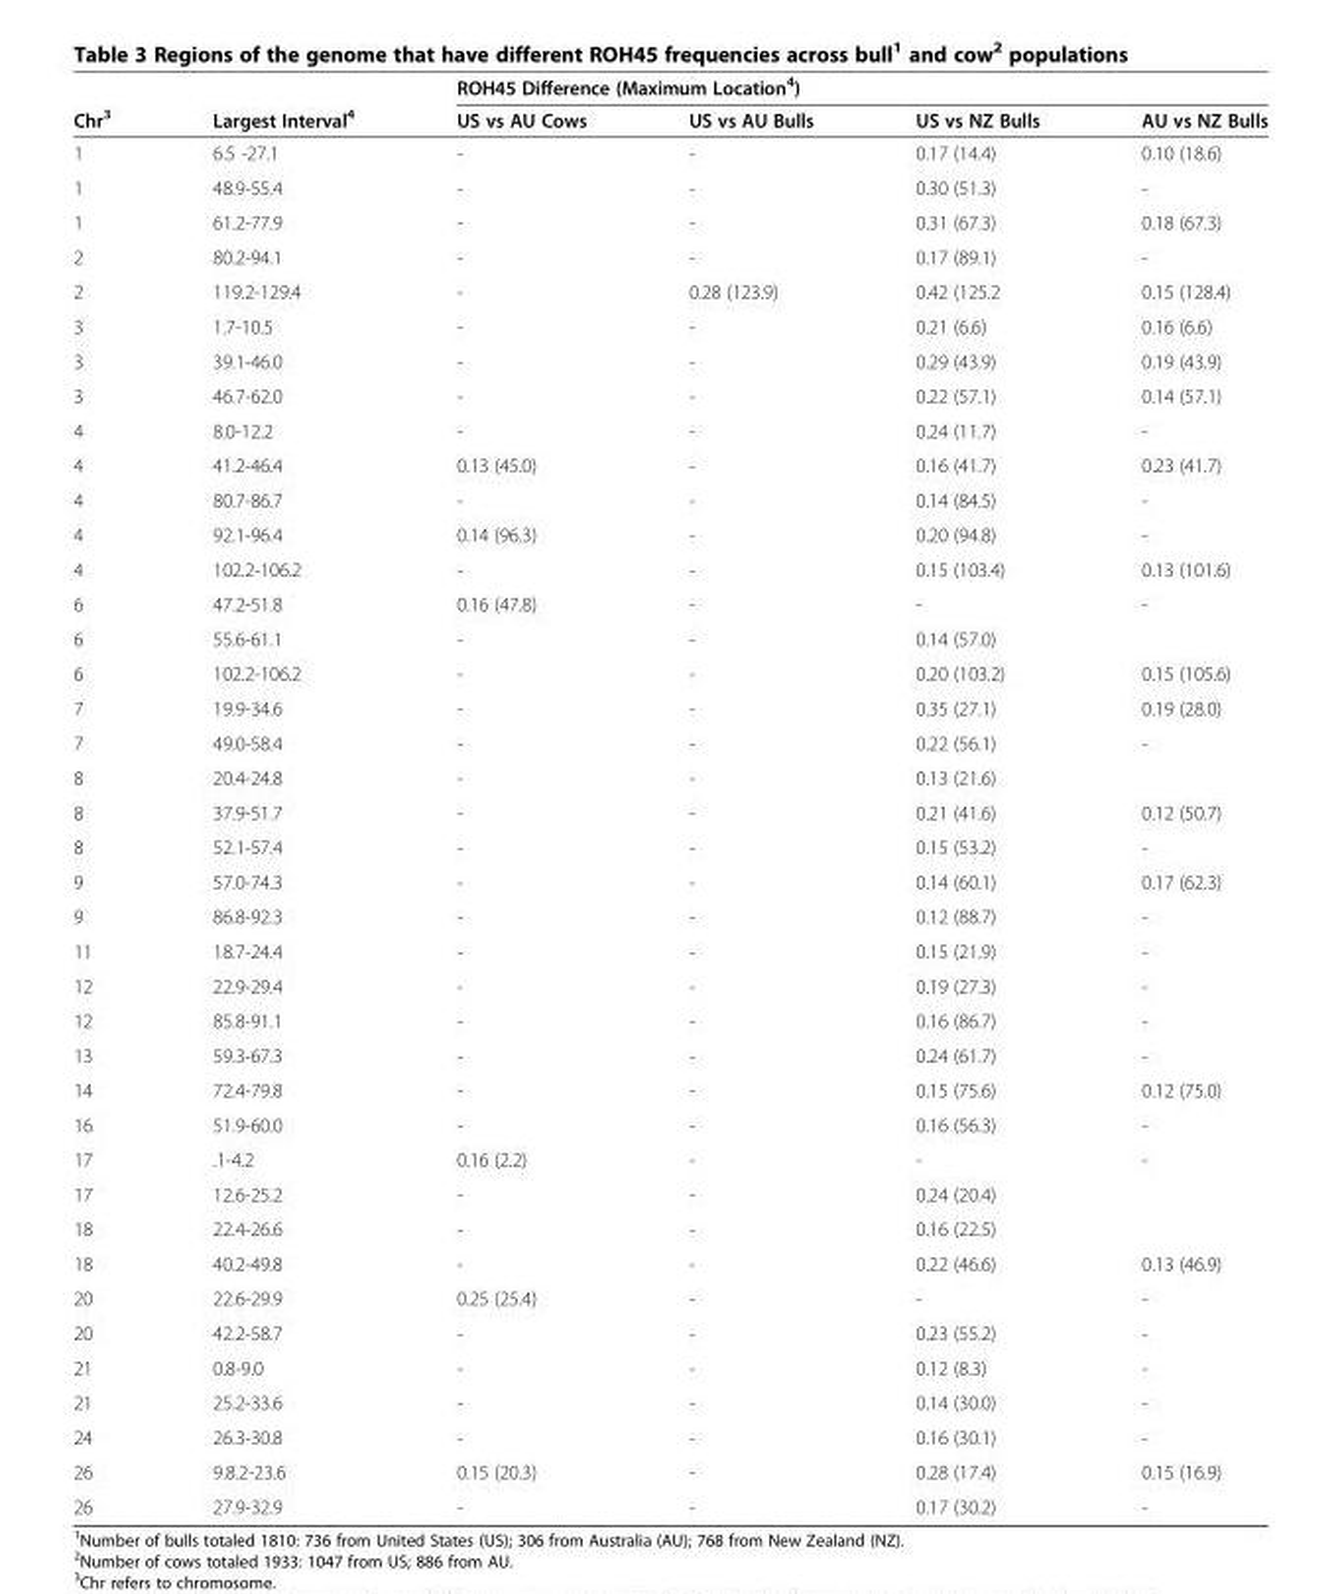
<table><thead><tr><td rowspan="2">Chr<sup>3</sup></td><td rowspan="2">Largest Interval<sup>4</sup></td><td colspan="4">ROH45 Difference (Maximum Location<sup>4</sup>)</td></tr><tr><td>US vs AU Cows</td><td>US vs AU Bulls</td><td>US vs NZ Bulls</td><td>AU vs NZ Bulls</td></tr></thead><tbody><tr><td>1</td><td>6.5 -27.1</td><td>-</td><td>-</td><td>0.17 (14.4)</td><td>0.10 (18.6)</td></tr><tr><td>1</td><td>48.9-55.4</td><td>-</td><td>-</td><td>0.30 (51.3)</td><td>-</td></tr><tr><td>1</td><td>61.2-77.9</td><td>-</td><td>-</td><td>0.31 (67.3)</td><td>0.18 (67.3)</td></tr><tr><td>2</td><td>80.2-94.1</td><td>-</td><td>-</td><td>0.17 (89.1)</td><td>-</td></tr><tr><td>2</td><td>119.2-129.4</td><td>-</td><td>0.28 (123.9)</td><td>0.42 (125.2</td><td>0.15 (128.4)</td></tr><tr><td>3</td><td>1.7-10.5</td><td>-</td><td>-</td><td>0.21 (6.6)</td><td>0.16 (6.6)</td></tr><tr><td>3</td><td>39.1-46.0</td><td>-</td><td>-</td><td>0.29 (43.9)</td><td>0.19 (43.9)</td></tr><tr><td>3</td><td>46.7-62.0</td><td>-</td><td>-</td><td>0.22 (57.1)</td><td>0.14 (57.1)</td></tr><tr><td>4</td><td>8.0-12.2</td><td>-</td><td>-</td><td>0.24 (11.7)</td><td>-</td></tr><tr><td>4</td><td>41.2-46.4</td><td>0.13 (45.0)</td><td>-</td><td>0.16 (41.7)</td><td>0.23 (41.7)</td></tr><tr><td>4</td><td>80.7-86.7</td><td>-</td><td>-</td><td>0.14 (84.5)</td><td>-</td></tr><tr><td>4</td><td>92.1-96.4</td><td>0.14 (96.3)</td><td>-</td><td>0.20 (94.8)</td><td>-</td></tr><tr><td>4</td><td>102.2-106.2</td><td>-</td><td>-</td><td>0.15 (103.4)</td><td>0.13 (101.6)</td></tr><tr><td>6</td><td>47.2-51.8</td><td>0.16 (47.8)</td><td>-</td><td>-</td><td>-</td></tr><tr><td>6</td><td>55.6-61.1</td><td>-</td><td>-</td><td>0.14 (57.0)</td><td></td></tr><tr><td>6</td><td>102.2-106.2</td><td>-</td><td>-</td><td>0.20 (103.2)</td><td>0.15 (105.6)</td></tr><tr><td>7</td><td>19.9-34.6</td><td>-</td><td>-</td><td>0.35 (27.1)</td><td>0.19 (28.0)</td></tr><tr><td>7</td><td>49.0-58.4</td><td>-</td><td>-</td><td>0.22 (56.1)</td><td>-</td></tr><tr><td>8</td><td>20.4-24.8</td><td>-</td><td>-</td><td>0.13 (21.6)</td><td></td></tr><tr><td>8</td><td>37.9-51.7</td><td>-</td><td>-</td><td>0.21 (41.6)</td><td>0.12 (50.7)</td></tr><tr><td>8</td><td>52.1-57.4</td><td>-</td><td>-</td><td>0.15 (53.2)</td><td>-</td></tr><tr><td>9</td><td>57.0-74.3</td><td>-</td><td>-</td><td>0.14 (60.1)</td><td>0.17 (62.3)</td></tr><tr><td>9</td><td>86.8-92.3</td><td>-</td><td>-</td><td>0.12 (88.7)</td><td>-</td></tr><tr><td>11</td><td>18.7-24.4</td><td>-</td><td>-</td><td>0.15 (21.9)</td><td>-</td></tr><tr><td>12</td><td>22.9-29.4</td><td>-</td><td>-</td><td>0.19 (27.3)</td><td>-</td></tr><tr><td>12</td><td>85.8-91.1</td><td>-</td><td>-</td><td>0.16 (86.7)</td><td>-</td></tr><tr><td>13</td><td>59.3-67.3</td><td>-</td><td>-</td><td>0.24 (61.7)</td><td>-</td></tr><tr><td>14</td><td>72.4-79.8</td><td>-</td><td>-</td><td>0.15 (75.6)</td><td>0.12 (75.0)</td></tr><tr><td>16</td><td>51.9-60.0</td><td>-</td><td>-</td><td>0.16 (56.3)</td><td>-</td></tr><tr><td>17</td><td>.1-4.2</td><td>0.16 (2.2)</td><td>-</td><td>-</td><td>-</td></tr><tr><td>17</td><td>12.6-25.2</td><td>-</td><td>-</td><td>0.24 (20.4)</td><td></td></tr><tr><td>18</td><td>22.4-26.6</td><td>-</td><td>-</td><td>0.16 (22.5)</td><td></td></tr><tr><td>18</td><td>40.2-49.8</td><td>-</td><td>-</td><td>0.22 (46.6)</td><td>0.13 (46.9)</td></tr><tr><td>20</td><td>22.6-29.9</td><td>0.25 (25.4)</td><td>-</td><td>-</td><td>-</td></tr><tr><td>20</td><td>42.2-58.7</td><td>-</td><td>-</td><td>0.23 (55.2)</td><td>-</td></tr><tr><td>21</td><td>0.8-9.0</td><td>-</td><td>-</td><td>0.12 (8.3)</td><td>-</td></tr><tr><td>21</td><td>25.2-33.6</td><td>-</td><td>-</td><td>0.14 (30.0)</td><td>-</td></tr><tr><td>24</td><td>26.3-30.8</td><td>-</td><td>-</td><td>0.16 (30.1)</td><td>-</td></tr><tr><td>26</td><td>9.8.2-23.6</td><td>0.15 (20.3)</td><td>-</td><td>0.28 (17.4)</td><td>0.15 (16.9)</td></tr><tr><td>26</td><td>27.9-32.9</td><td>-</td><td>-</td><td>0.17 (30.2)</td><td>-</td></tr></tbody></table>